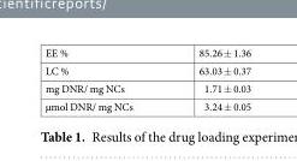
<table><tbody><tr><td>EE %</td><td>85.26 ± 1.36</td></tr><tr><td>LC %</td><td>63.03 ± 0.37</td></tr><tr><td>mg DNR/ mg NCs</td><td>1.71 ± 0.03</td></tr><tr><td>µmol DNR/ mg NCs</td><td>3.24 ± 0.05</td></tr></tbody></table>